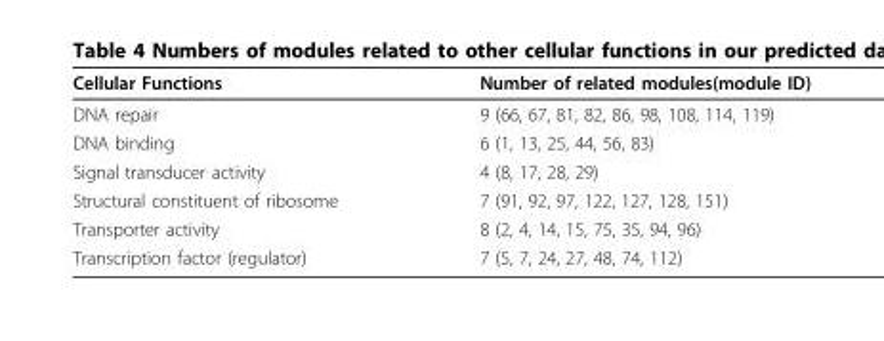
<table><thead><tr><td>Cellular Functions</td><td>Number of related modules(module ID)</td></tr></thead><tbody><tr><td>DNA repair</td><td>9 (66, 67, 81, 82, 86, 98, 108, 114, 119)</td></tr><tr><td>DNA binding</td><td>6 (1, 13, 25, 44, 56, 83)</td></tr><tr><td>Signal transducer activity</td><td>4 (8, 17, 28, 29)</td></tr><tr><td>Structural constituent of ribosome</td><td>7 (91, 92, 97, 122, 127, 128, 151)</td></tr><tr><td>Transporter activity</td><td>8 (2, 4, 14, 15, 75, 35, 94, 96)</td></tr><tr><td>Transcription factor (regulator)</td><td>7 (5, 7, 24, 27, 48, 74, 112)</td></tr></tbody></table>